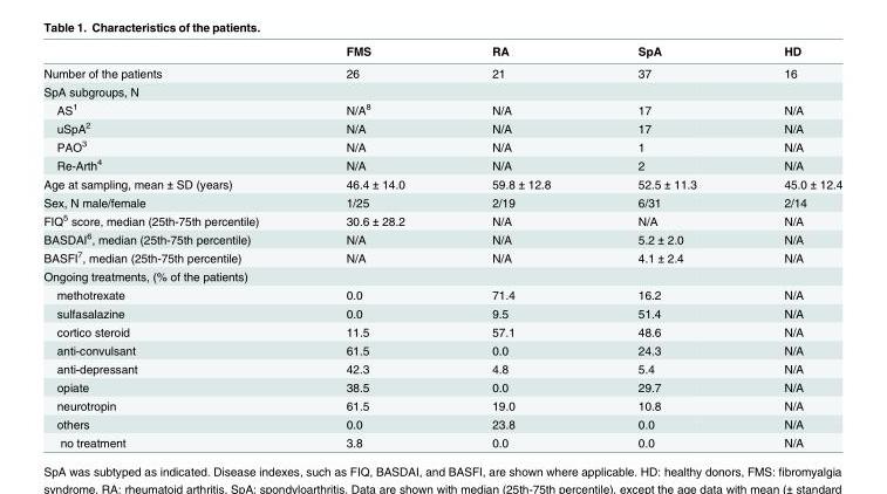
<table><thead><tr><td></td><td>FMS</td><td>RA</td><td>SpA</td><td>HD</td></tr></thead><tbody><tr><td>Number of the patients</td><td>26</td><td>21</td><td>37</td><td>16</td></tr><tr><td colspan="5">SpA subgroups, N</td></tr><tr><td>AS<sup>1</sup></td><td>N/A<sup>8</sup></td><td>N/A</td><td>17</td><td>N/A</td></tr><tr><td>uSpA<sup>2</sup></td><td>N/A</td><td>N/A</td><td>17</td><td>N/A</td></tr><tr><td>PAO<sup>3</sup></td><td>N/A</td><td>N/A</td><td>1</td><td>N/A</td></tr><tr><td>Re-Arth<sup>4</sup></td><td>N/A</td><td>N/A</td><td>2</td><td>N/A</td></tr><tr><td>Age at sampling, mean ± SD (years)</td><td>46.4 ± 14.0</td><td>59.8 ± 12.8</td><td>52.5 ± 11.3</td><td>45.0 ± 12.4</td></tr><tr><td>Sex, N male/female</td><td>1/25</td><td>2/19</td><td>6/31</td><td>2/14</td></tr><tr><td>FIQ<sup>5</sup> score, median (25th-75th percentile)</td><td>30.6 ± 28.2</td><td>N/A</td><td>N/A</td><td>N/A</td></tr><tr><td>BASDAI<sup>6</sup>, median (25th-75th percentile)</td><td>N/A</td><td>N/A</td><td>5.2 ± 2.0</td><td>N/A</td></tr><tr><td>BASFI<sup>7</sup>, median (25th-75th percentile)</td><td>N/A</td><td>N/A</td><td>4.1 ± 2.4</td><td>N/A</td></tr><tr><td colspan="5">Ongoing treatments, (% of the patients)</td></tr><tr><td>methotrexate</td><td>0.0</td><td>71.4</td><td>16.2</td><td>N/A</td></tr><tr><td>sulfasalazine</td><td>0.0</td><td>9.5</td><td>51.4</td><td>N/A</td></tr><tr><td>cortico steroid</td><td>11.5</td><td>57.1</td><td>48.6</td><td>N/A</td></tr><tr><td>anti-convulsant</td><td>61.5</td><td>0.0</td><td>24.3</td><td>N/A</td></tr><tr><td>anti-depressant</td><td>42.3</td><td>4.8</td><td>5.4</td><td>N/A</td></tr><tr><td>opiate</td><td>38.5</td><td>0.0</td><td>29.7</td><td>N/A</td></tr><tr><td>neurotropin</td><td>61.5</td><td>19.0</td><td>10.8</td><td>N/A</td></tr><tr><td>others</td><td>0.0</td><td>23.8</td><td>0.0</td><td>N/A</td></tr><tr><td>no treatment</td><td>3.8</td><td>0.0</td><td>0.0</td><td>N/A</td></tr></tbody></table>